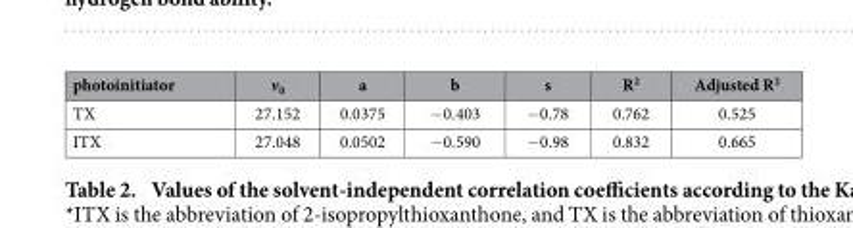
<table><thead><tr><td>photoinitiator</td><td>v<sub>0</sub></td><td>a</td><td>b</td><td>s</td><td>R<sup>2</sup></td><td>Adjusted R<sup>2</sup></td></tr></thead><tbody><tr><td>TX</td><td>27.152</td><td>0.0375</td><td>− 0.403</td><td>− 0.78</td><td>0.762</td><td>0.525</td></tr><tr><td>ITX</td><td>27.048</td><td>0.0502</td><td>− 0.590</td><td>− 0.98</td><td>0.832</td><td>0.665</td></tr></tbody></table>